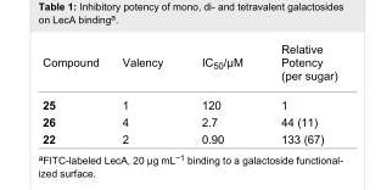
<table><tbody><tr><td>Compound</td><td>Valency</td><td>IC<sub>50</sub>/μM</td><td>Relative Potency (per sugar)</td></tr><tr><td>25</td><td>1</td><td>120</td><td>1</td></tr><tr><td>26</td><td>4</td><td>2.7</td><td>44 (11)</td></tr><tr><td>22</td><td>2</td><td>0.90</td><td>133 (67)</td></tr></tbody></table>